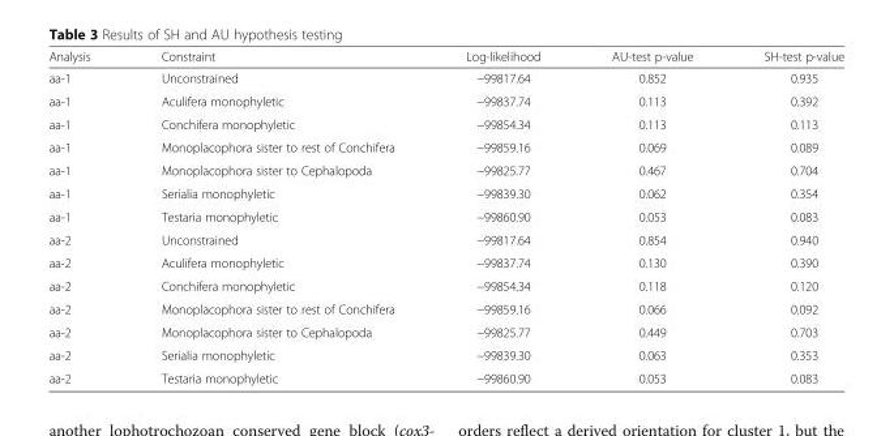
<table><thead><tr><td>Analysis</td><td>Constraint</td><td>Log-likelihood</td><td>AU-test p-value</td><td>SH-test p-value</td></tr></thead><tbody><tr><td>aa-1</td><td>Unconstrained</td><td>−99817.64</td><td>0.852</td><td>0.935</td></tr><tr><td>aa-1</td><td>Aculifera monophyletic</td><td>−99837.74</td><td>0.113</td><td>0.392</td></tr><tr><td>aa-1</td><td>Conchifera monophyletic</td><td>−99854.34</td><td>0.113</td><td>0.113</td></tr><tr><td>aa-1</td><td>Monoplacophora sister to rest of Conchifera</td><td>−99859.16</td><td>0.069</td><td>0.089</td></tr><tr><td>aa-1</td><td>Monoplacophora sister to Cephalopoda</td><td>−99825.77</td><td>0.467</td><td>0.704</td></tr><tr><td>aa-1</td><td>Serialia monophyletic</td><td>−99839.30</td><td>0.062</td><td>0.354</td></tr><tr><td>aa-1</td><td>Testaria monophyletic</td><td>−99860.90</td><td>0.053</td><td>0.083</td></tr><tr><td>aa-2</td><td>Unconstrained</td><td>−99817.64</td><td>0.854</td><td>0.940</td></tr><tr><td>aa-2</td><td>Aculifera monophyletic</td><td>−99837.74</td><td>0.130</td><td>0.390</td></tr><tr><td>aa-2</td><td>Conchifera monophyletic</td><td>−99854.34</td><td>0.118</td><td>0.120</td></tr><tr><td>aa-2</td><td>Monoplacophora sister to rest of Conchifera</td><td>−99859.16</td><td>0.066</td><td>0.092</td></tr><tr><td>aa-2</td><td>Monoplacophora sister to Cephalopoda</td><td>−99825.77</td><td>0.449</td><td>0.703</td></tr><tr><td>aa-2</td><td>Serialia monophyletic</td><td>−99839.30</td><td>0.063</td><td>0.353</td></tr><tr><td>aa-2</td><td>Testaria monophyletic</td><td>−99860.90</td><td>0.053</td><td>0.083</td></tr></tbody></table>